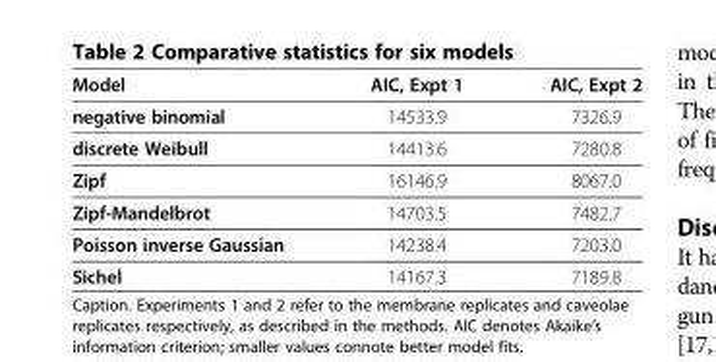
<table><thead><tr><td>Model</td><td>AIC, Expt 1</td><td>AIC, Expt 2</td></tr></thead><tbody><tr><td>negative binomial</td><td>14533.9</td><td>7326.9</td></tr><tr><td>discrete Weibull</td><td>14413.6</td><td>7280.8</td></tr><tr><td>Zipf</td><td>16146.9</td><td>8067.0</td></tr><tr><td>Zipf-Mandelbrot</td><td>14703.5</td><td>7482.7</td></tr><tr><td>Poisson inverse Gaussian</td><td>14238.4</td><td>7203.0</td></tr><tr><td>Sichel</td><td>14167.3</td><td>7189.8</td></tr></tbody></table>